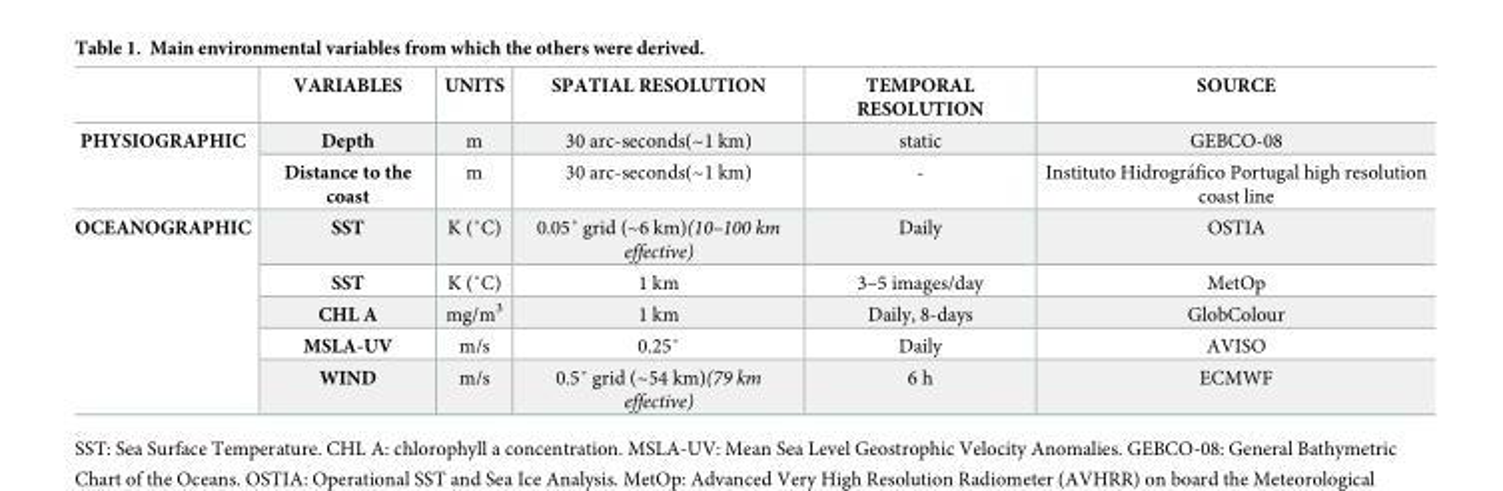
<table><thead><tr><td></td><td>VARIABLES</td><td>UNITS</td><td>SPATIAL RESOLUTION</td><td>TEMPORAL RESOLUTION</td><td>SOURCE</td></tr></thead><tbody><tr><td rowspan="2">PHYSIOGRAPHIC</td><td>Depth</td><td>m</td><td>30 arc-seconds(~1 km)</td><td>static</td><td>GEBCO-08</td></tr><tr><td>Distance to the coast</td><td>m</td><td>30 arc-seconds(~1 km)</td><td>-</td><td>Instituto Hidrogra´fico Portugal high resolution coast line</td></tr><tr><td rowspan="5">OCEANOGRAPHIC</td><td>SST</td><td>K (˚C)</td><td>0.05˚ grid (~6 km)(10–100 km effective)</td><td>Daily</td><td>OSTIA</td></tr><tr><td>SST</td><td>K (˚C)</td><td>1 km</td><td>3–5 images/day</td><td>MetOp</td></tr><tr><td>CHL A</td><td>mg/m<sup>3</sup></td><td>1 km</td><td>Daily, 8-days</td><td>GlobColour</td></tr><tr><td>MSLA-UV</td><td>m/s</td><td>0.25˚</td><td>Daily</td><td>AVISO</td></tr><tr><td>WIND</td><td>m/s</td><td>0.5˚ grid (~54 km)(79 km effective)</td><td>6 h</td><td>ECMWF</td></tr></tbody></table>